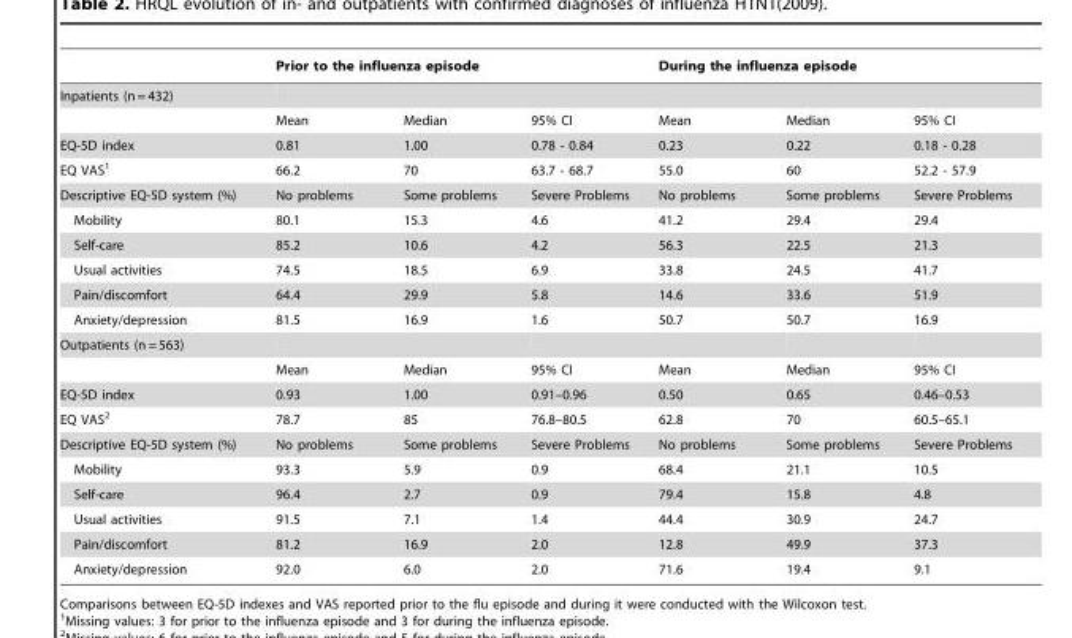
<table><thead><tr><td rowspan="3">Inpatients (n = 432)</td><td rowspan="2" colspan="3">Prior to the influenza episode</td><td rowspan="2" colspan="3">During the influenza episode</td></tr><tr></tr><tr><td>Mean</td><td>Median</td><td>95% CI</td><td>Mean</td><td>Median</td><td>95% CI</td></tr></thead><tbody><tr><td>EQ-5D index</td><td>0.81</td><td>1.00</td><td>0.78 - 0.84</td><td>0.23</td><td>0.22</td><td>0.18 - 0.28</td></tr><tr><td>EQ VAS<sup>1</sup></td><td>66.2</td><td>70</td><td>63.7 - 68.7</td><td>55.0</td><td>60</td><td>52.2 - 57.9</td></tr><tr><td>Descriptive EQ-5D system (%)</td><td>No problems</td><td>Some problems</td><td>Severe Problems</td><td>No problems</td><td>Some problems</td><td>Severe Problems</td></tr><tr><td>Mobility</td><td>80.1</td><td>15.3</td><td>4.6</td><td>41.2</td><td>29.4</td><td>29.4</td></tr><tr><td>Self-care</td><td>85.2</td><td>10.6</td><td>4.2</td><td>56.3</td><td>22.5</td><td>21.3</td></tr><tr><td>Usual activities</td><td>74.5</td><td>18.5</td><td>6.9</td><td>33.8</td><td>24.5</td><td>41.7</td></tr><tr><td>Pain/discomfort</td><td>64.4</td><td>29.9</td><td>5.8</td><td>14.6</td><td>33.6</td><td>51.9</td></tr><tr><td>Anxiety/depression</td><td>81.5</td><td>16.9</td><td>1.6</td><td>50.7</td><td>50.7</td><td>16.9</td></tr><tr><td colspan="7">Outpatients (n = 563)</td></tr><tr><td></td><td>Mean</td><td>Median</td><td>95% CI</td><td>Mean</td><td>Median</td><td>95% CI</td></tr><tr><td>EQ-5D index</td><td>0.93</td><td>1.00</td><td>0.91–0.96</td><td>0.50</td><td>0.65</td><td>0.46–0.53</td></tr><tr><td>EQ VAS<sup>2</sup></td><td>78.7</td><td>85</td><td>76.8–80.5</td><td>62.8</td><td>70</td><td>60.5–65.1</td></tr><tr><td>Descriptive EQ-5D system (%)</td><td>No problems</td><td>Some problems</td><td>Severe Problems</td><td>No problems</td><td>Some problems</td><td>Severe Problems</td></tr><tr><td>Mobility</td><td>93.3</td><td>5.9</td><td>0.9</td><td>68.4</td><td>21.1</td><td>10.5</td></tr><tr><td>Self-care</td><td>96.4</td><td>2.7</td><td>0.9</td><td>79.4</td><td>15.8</td><td>4.8</td></tr><tr><td>Usual activities</td><td>91.5</td><td>7.1</td><td>1.4</td><td>44.4</td><td>30.9</td><td>24.7</td></tr><tr><td>Pain/discomfort</td><td>81.2</td><td>16.9</td><td>2.0</td><td>12.8</td><td>49.9</td><td>37.3</td></tr><tr><td>Anxiety/depression</td><td>92.0</td><td>6.0</td><td>2.0</td><td>71.6</td><td>19.4</td><td>9.1</td></tr></tbody></table>